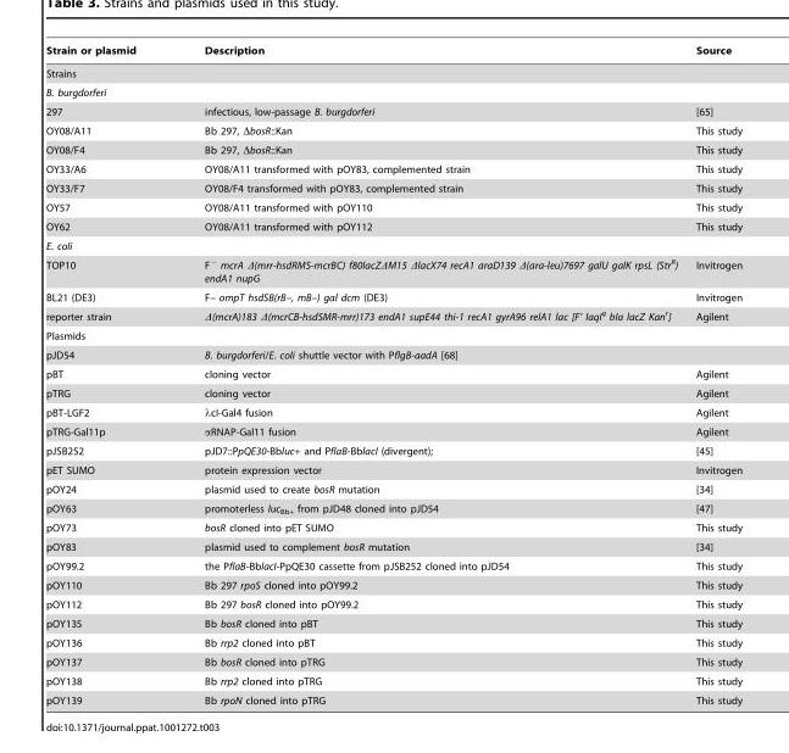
<table><thead><tr><td>Strain or plasmid</td><td>Description</td><td>Source</td></tr></thead><tbody><tr><td colspan="3">Strains</td></tr><tr><td colspan="3">B. burgdorferi</td></tr><tr><td>297</td><td>infectious, low-passage B. burgdorferi</td><td>[65]</td></tr><tr><td>OY08/A11</td><td>Bb 297, ΔbosR::Kan</td><td>This study</td></tr><tr><td>OY08/F4</td><td>Bb 297, ΔbosR::Kan</td><td>This study</td></tr><tr><td>OY33/A6</td><td>OY08/A11 transformed with pOY83, complemented strain</td><td>This study</td></tr><tr><td>OY33/F7</td><td>OY08/F4 transformed with pOY83, complemented strain</td><td>This study</td></tr><tr><td>OY57</td><td>OY08/A11 transformed with pOY110</td><td>This study</td></tr><tr><td>OY62</td><td>OY08/A11 transformed with pOY112</td><td>This study</td></tr><tr><td colspan="3">E. coli</td></tr><tr><td>TOP10</td><td>F<sup>−</sup> mcrA Δ(mrr-hsdRMS-mcrBC) f80lacZΔM15 ΔlacX74 recA1 araD139 Δ(ara-leu)7697 galU galK rpsL (Str<sup>R</sup>) endA1 nupG</td><td>Invitrogen</td></tr><tr><td>BL21 (DE3)</td><td>F– ompT hsdSB(rB–, mB–) gal dcm (DE3)</td><td>Invitrogen</td></tr><tr><td>reporter strain</td><td>Δ(mcrA)183 Δ(mcrCB-hsdSMR-mrr)173 endA1 supE44 thi-1 recA1 gyrA96 relA1 lac [F’ laqI<sup>q</sup> bla lacZ Kan<sup>r</sup>]</td><td>Agilent</td></tr><tr><td colspan="3">Plasmids</td></tr><tr><td>pJD54</td><td colspan="2">B. burgdorferi/E. coli shuttle vector with PflgB-aadA [68]</td></tr><tr><td>pBT</td><td>cloning vector</td><td>Agilent</td></tr><tr><td>pTRG</td><td>cloning vector</td><td>Agilent</td></tr><tr><td>pBT-LGF2</td><td>λcI-Gal4 fusion</td><td>Agilent</td></tr><tr><td>pTRG-Gal11p</td><td>αRNAP-Gal11 fusion</td><td>Agilent</td></tr><tr><td>pJSB252</td><td>pJD7::PpQE30-Bbluc+ and PflaB-BblacI (divergent);</td><td>[45]</td></tr><tr><td>pET SUMO</td><td>protein expression vector</td><td>Invitrogen</td></tr><tr><td>pOY24</td><td>plasmid used to create bosR mutation</td><td>[34]</td></tr><tr><td>pOY63</td><td>promoterless luc<sub>Bb+</sub> from pJD48 cloned into pJD54</td><td>[47]</td></tr><tr><td>pOY73</td><td>bosR cloned into pET SUMO</td><td>This study</td></tr><tr><td>pOY83</td><td>plasmid used to complement bosR mutation</td><td>[34]</td></tr><tr><td>pOY99.2</td><td>the PflaB-BblacI-PpQE30 cassette from pJSB252 cloned into pJD54</td><td>This study</td></tr><tr><td>pOY110</td><td>Bb 297 rpoS cloned into pOY99.2</td><td>This study</td></tr><tr><td>pOY112</td><td>Bb 297 bosR cloned into pOY99.2</td><td>This study</td></tr><tr><td>pOY135</td><td>Bb bosR cloned into pBT</td><td>This study</td></tr><tr><td>pOY136</td><td>Bb rrp2 cloned into pBT</td><td>This study</td></tr><tr><td>pOY137</td><td>Bb bosR cloned into pTRG</td><td>This study</td></tr><tr><td>pOY138</td><td>Bb rrp2 cloned into pTRG</td><td>This study</td></tr><tr><td>pOY139</td><td>Bb rpoN cloned into pTRG</td><td>This study</td></tr></tbody></table>